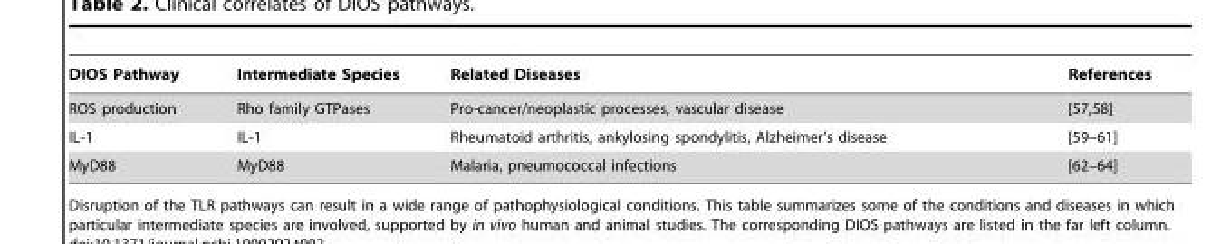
<table><thead><tr><td>DIOS Pathway</td><td>Intermediate Species</td><td>Related Diseases</td><td>References</td></tr></thead><tbody><tr><td>ROS production</td><td>Rho family GTPases</td><td>Pro-cancer/neoplastic processes, vascular disease</td><td>[57,58]</td></tr><tr><td>IL-1</td><td>IL-1</td><td>Rheumatoid arthritis, ankylosing spondylitis, Alzheimer’s disease</td><td>[59–61]</td></tr><tr><td>MyD88</td><td>MyD88</td><td>Malaria, pneumococcal infections</td><td>[62–64]</td></tr></tbody></table>